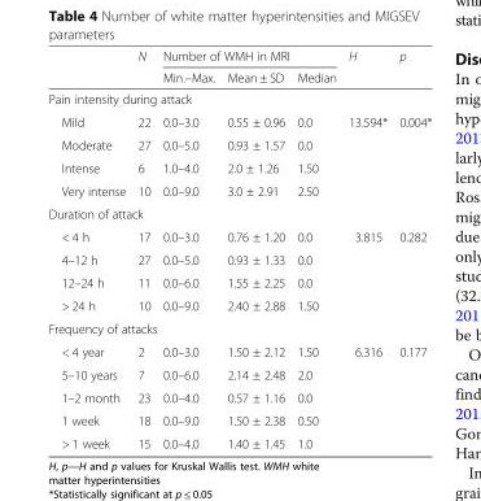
<table><thead><tr><td rowspan="2"></td><td rowspan="2">N</td><td colspan="3">Number of WMH in MRI</td><td rowspan="2">H</td><td rowspan="2">p</td></tr><tr><td>Min.–Max.</td><td>Mean ± SD</td><td>Median</td></tr></thead><tbody><tr><td colspan="7">Pain intensity during attack</td></tr><tr><td>Mild</td><td>22</td><td>0.0–3.0</td><td>0.55 ± 0.96</td><td>0.0</td><td rowspan="4">13.594*</td><td rowspan="4">0.004*</td></tr><tr><td>Moderate</td><td>27</td><td>0.0–5.0</td><td>0.93 ± 1.57</td><td>0.0</td></tr><tr><td>Intense</td><td>6</td><td>1.0–4.0</td><td>2.0 ± 1.26</td><td>1.50</td></tr><tr><td>Very intense</td><td>10</td><td>0.0–9.0</td><td>3.0 ± 2.91</td><td>2.50</td></tr><tr><td colspan="7">Duration of attack</td></tr><tr><td>&lt; 4 h</td><td>17</td><td>0.0–3.0</td><td>0.76 ± 1.20</td><td>0.0</td><td rowspan="4">3.815</td><td rowspan="4">0.282</td></tr><tr><td>4–12 h</td><td>27</td><td>0.0–5.0</td><td>0.93 ± 1.33</td><td>0.0</td></tr><tr><td>12–24 h</td><td>11</td><td>0.0–6.0</td><td>1.55 ± 2.25</td><td>0.0</td></tr><tr><td>&gt; 24 h</td><td>10</td><td>0.0–9.0</td><td>2.40 ± 2.88</td><td>1.50</td></tr><tr><td colspan="7">Frequency of attacks</td></tr><tr><td>&lt; 4 year</td><td>2</td><td>0.0–3.0</td><td>1.50 ± 2.12</td><td>1.50</td><td rowspan="5">6.316</td><td rowspan="5">0.177</td></tr><tr><td>5–10 years</td><td>7</td><td>0.0–6.0</td><td>2.14 ± 2.48</td><td>2.0</td></tr><tr><td>1–2 month</td><td>23</td><td>0.0–4.0</td><td>0.57 ± 1.16</td><td>0.0</td></tr><tr><td>1 week</td><td>18</td><td>0.0–9.0</td><td>1.50 ± 2.38</td><td>0.50</td></tr><tr><td>&gt; 1 week</td><td>15</td><td>0.0–4.0</td><td>1.40 ± 1.45</td><td>1.0</td></tr></tbody></table>